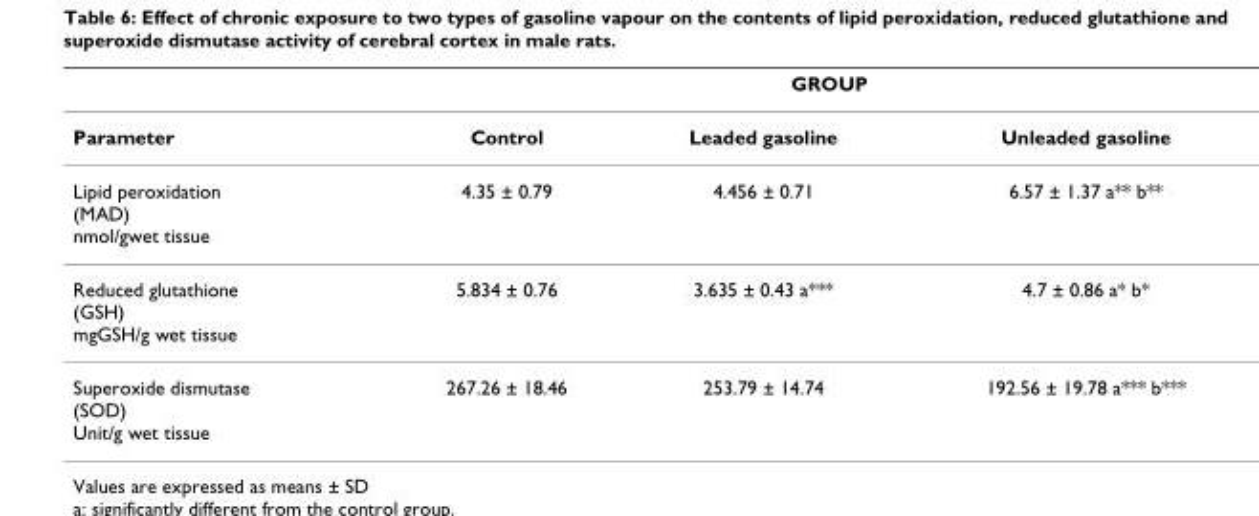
<table><thead><tr><td rowspan="2">Parameter</td><td colspan="3">GROUP</td></tr><tr><td>Control</td><td>Leaded gasoline</td><td>Unleaded gasoline</td></tr></thead><tbody><tr><td>Lipid peroxidation (MAD) nmol/gwet tissue</td><td>4.35 ± 0.79</td><td>4.456 ± 0.71</td><td>6.57 ± 1.37 a** b**</td></tr><tr><td>Reduced glutathione (GSH) mgGSH/g wet tissue</td><td>5.834 ± 0.76</td><td>3.635 ± 0.43 a***</td><td>4.7 ± 0.86 a* b*</td></tr><tr><td>Superoxide dismutase (SOD) Unit/g wet tissue</td><td>267.26 ± 18.46</td><td>253.79 ± 14.74</td><td>192.56 ± 19.78 a*** b***</td></tr></tbody></table>